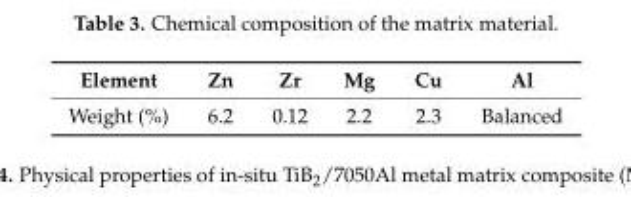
<table><thead><tr><td>Element</td><td>Zn</td><td>Zr</td><td>Mg</td><td>Cu</td><td>Al</td></tr></thead><tbody><tr><td>Weight (%)</td><td>6.2</td><td>0.12</td><td>2.2</td><td>2.3</td><td>Balanced</td></tr></tbody></table>